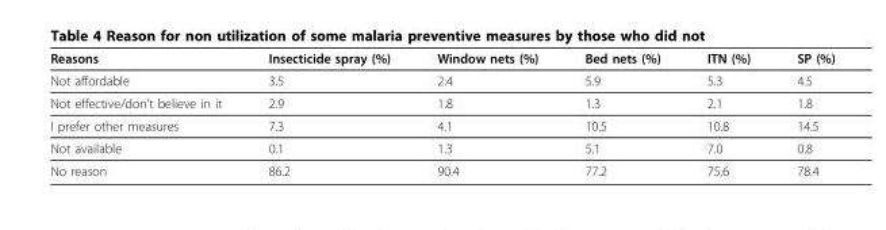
<table><thead><tr><td>Reasons</td><td>Insecticide spray (%)</td><td>Window nets (%)</td><td>Bed nets (%)</td><td>ITN (%)</td><td>SP (%)</td></tr></thead><tbody><tr><td>Not affordable</td><td>3.5</td><td>2.4</td><td>5.9</td><td>5.3</td><td>4.5</td></tr><tr><td>Not effective/don’t believe in it</td><td>2.9</td><td>1.8</td><td>1.3</td><td>2.1</td><td>1.8</td></tr><tr><td>I prefer other measures</td><td>7.3</td><td>4.1</td><td>10.5</td><td>10.8</td><td>14.5</td></tr><tr><td>Not available</td><td>0.1</td><td>1.3</td><td>5.1</td><td>7.0</td><td>0.8</td></tr><tr><td>No reason</td><td>86.2</td><td>90.4</td><td>77.2</td><td>75.6</td><td>78.4</td></tr></tbody></table>